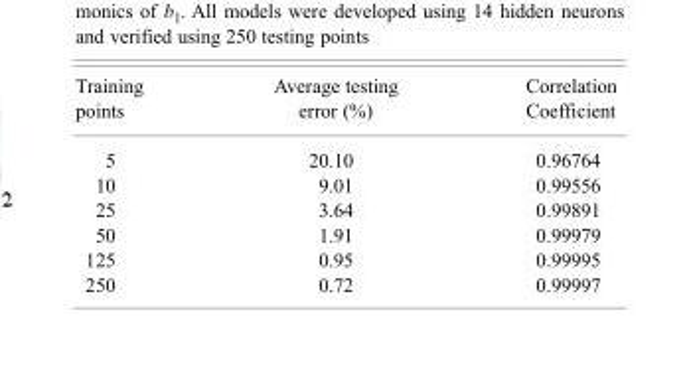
<table><thead><tr><td>Training points</td><td>Average testing error (%)</td><td>Correlation Coefficient</td></tr></thead><tbody><tr><td>5</td><td>20.10</td><td>0.96764</td></tr><tr><td>10</td><td>9.01</td><td>0.99556</td></tr><tr><td>25</td><td>3.64</td><td>0.99891</td></tr><tr><td>50</td><td>1.91</td><td>0.99979</td></tr><tr><td>125</td><td>0.95</td><td>0.99995</td></tr><tr><td>250</td><td>0.72</td><td>0.99997</td></tr></tbody></table>